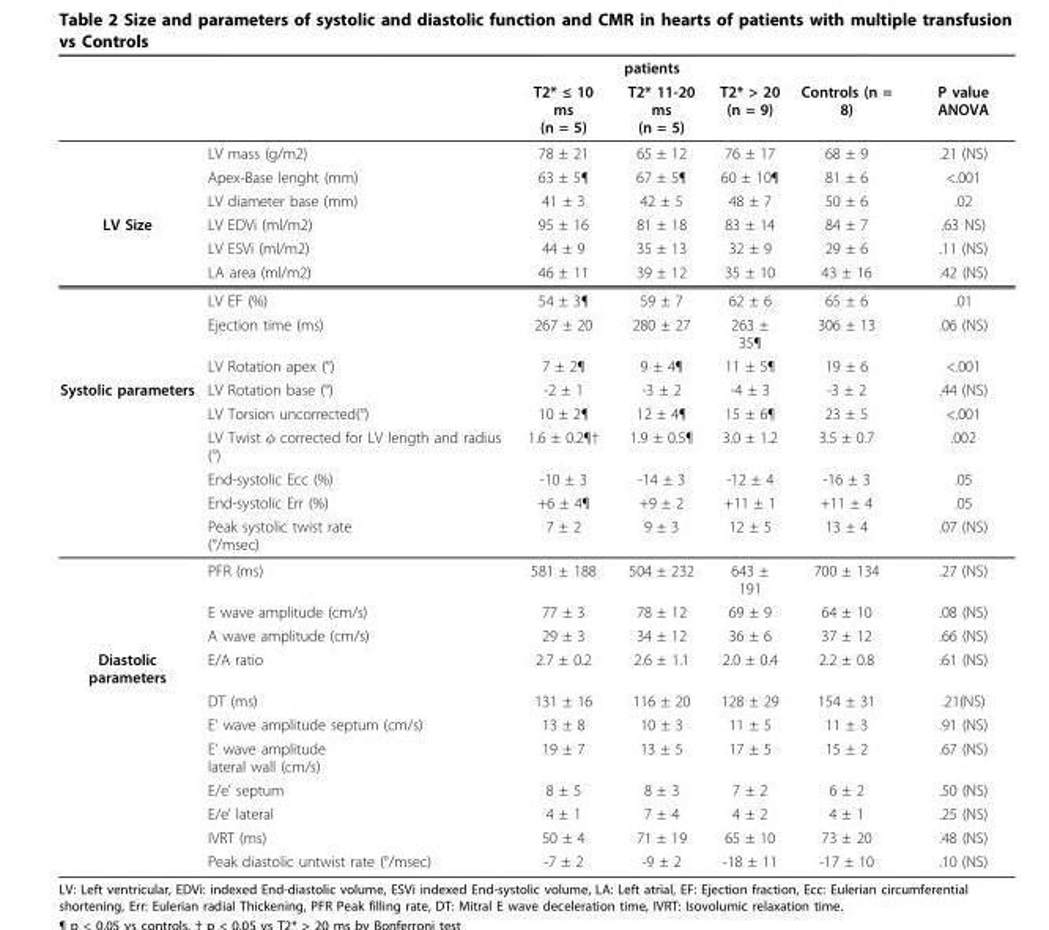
<table><thead><tr><td rowspan="2"></td><td rowspan="2"></td><td colspan="3">patients</td><td rowspan="2">Controls (n = 8)</td><td rowspan="2">P value ANOVA</td></tr><tr><td>T2* ≤ 10 ms (n = 5)</td><td>T2* 11-20 ms (n = 5)</td><td>T2* &gt; 20 (n = 9)</td></tr></thead><tbody><tr><td></td><td>LV mass (g/m2)</td><td>78 ± 21</td><td>65 ± 12</td><td>76 ± 17</td><td>68 ± 9</td><td>.21 (NS)</td></tr><tr><td></td><td>Apex-Base lenght (mm)</td><td>63 ± 5¶</td><td>67 ± 5¶</td><td>60 ± 10¶</td><td>81 ± 6</td><td>&lt;.001</td></tr><tr><td></td><td>LV diameter base (mm)</td><td>41 ± 3</td><td>42 ± 5</td><td>48 ± 7</td><td>50 ± 6</td><td>.02</td></tr><tr><td rowspan="6">LV Size</td><td>LV EDVi (ml/m2)</td><td>95 ± 16</td><td>81 ± 18</td><td>83 ± 14</td><td>84 ± 7</td><td>.63 NS)</td></tr><tr><td>LV ESVi (ml/m2)</td><td>44 ± 9</td><td>35 ± 13</td><td>32 ± 9</td><td>29 ± 6</td><td>.11 (NS)</td></tr><tr><td>LA area (ml/m2)</td><td>46 ± 11</td><td>39 ± 12</td><td>35 ± 10</td><td>43 ± 16</td><td>.42 (NS)</td></tr><tr><td>LV EF (%)</td><td>54 ± 3¶</td><td>59 ± 7</td><td>62 ± 6</td><td>65 ± 6</td><td>.01</td></tr><tr><td>Ejection time (ms)</td><td>267 ± 20</td><td>280 ± 27</td><td>263 ± 35¶</td><td>306 ± 13</td><td>.06 (NS)</td></tr><tr><td>LV Rotation apex (°)</td><td>7 ± 2¶</td><td>9 ± 4¶</td><td>11 ± 5¶</td><td>19 ± 6</td><td>&lt;.001</td></tr><tr><td rowspan="9">Systolic parameters</td><td>LV Rotation base (°)</td><td>-2 ± 1</td><td>-3 ± 2</td><td>-4 ± 3</td><td>-3 ± 2</td><td>.44 (NS)</td></tr><tr><td>LV Torsion uncorrected(°)</td><td>10 ± 2¶</td><td>12 ± 4¶</td><td>15 ± 6¶</td><td>23 ± 5</td><td>&lt;.001</td></tr><tr><td>LV Twist φ corrected for LV length and radius (°)</td><td>1.6 ± 0.2¶†</td><td>1.9 ± 0.5¶</td><td>3.0 ± 1.2</td><td>3.5 ± 0.7</td><td>.002</td></tr><tr><td>End-systolic Ecc (%)</td><td>-10 ± 3</td><td>-14 ± 3</td><td>-12 ± 4</td><td>-16 ± 3</td><td>.05</td></tr><tr><td>End-systolic Err (%)</td><td>+6 ± 4¶</td><td>+9 ± 2</td><td>+11 ± 1</td><td>+11 ± 4</td><td>.05</td></tr><tr><td>Peak systolic twist rate (°/msec)</td><td>7 ± 2</td><td>9 ± 3</td><td>12 ± 5</td><td>13 ± 4</td><td>.07 (NS)</td></tr><tr><td>PFR (ms)</td><td>581 ± 188</td><td>504 ± 232</td><td>643 ± 191</td><td>700 ± 134</td><td>.27 (NS)</td></tr><tr><td>E wave amplitude (cm/s)</td><td>77 ± 3</td><td>78 ± 12</td><td>69 ± 9</td><td>64 ± 10</td><td>.08 (NS)</td></tr><tr><td>A wave amplitude (cm/s)</td><td>29 ± 3</td><td>34 ± 12</td><td>36 ± 6</td><td>37 ± 12</td><td>.66 (NS)</td></tr><tr><td rowspan="8">Diastolic parameters</td><td>E/A ratio</td><td>2.7 ± 0.2</td><td>2.6 ± 1.1</td><td>2.0 ± 0.4</td><td>2.2 ± 0.8</td><td>.61 (NS)</td></tr><tr><td>DT (ms)</td><td>131 ± 16</td><td>116 ± 20</td><td>128 ± 29</td><td>154 ± 31</td><td>.21(NS)</td></tr><tr><td>E’ wave amplitude septum (cm/s)</td><td>13 ± 8</td><td>10 ± 3</td><td>11 ± 5</td><td>11 ± 3</td><td>.91 (NS)</td></tr><tr><td>E’ wave amplitude lateral wall (cm/s)</td><td>19 ± 7</td><td>13 ± 5</td><td>17 ± 5</td><td>15 ± 2</td><td>.67 (NS)</td></tr><tr><td>E/e’ septum</td><td>8 ± 5</td><td>8 ± 3</td><td>7 ± 2</td><td>6 ± 2</td><td>.50 (NS)</td></tr><tr><td>E/e’ lateral</td><td>4 ± 1</td><td>7 ± 4</td><td>4 ± 2</td><td>4 ± 1</td><td>.25 (NS)</td></tr><tr><td>IVRT (ms)</td><td>50 ± 4</td><td>71 ± 19</td><td>65 ± 10</td><td>73 ± 20</td><td>.48 (NS)</td></tr><tr><td>Peak diastolic untwist rate (°/msec)</td><td>-7 ± 2</td><td>-9 ± 2</td><td>-18 ± 11</td><td>-17 ± 10</td><td>.10 (NS)</td></tr></tbody></table>